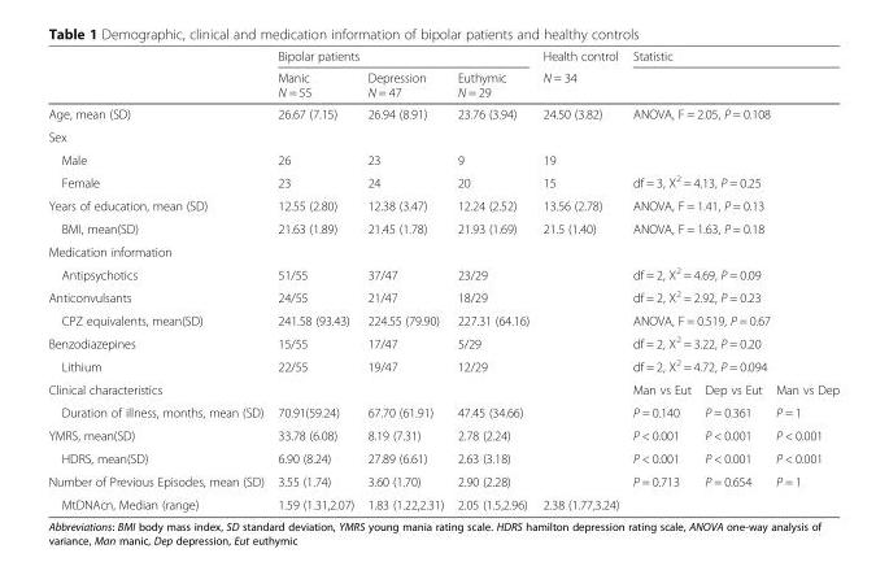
<table><thead><tr><td rowspan="2"></td><td colspan="3">Bipolar patients</td><td rowspan="2">Health control N = 34</td><td colspan="3">Statistic</td></tr><tr><td>Manic N = 55</td><td>Depression N = 47</td><td>Euthymic N = 29</td><td></td><td></td><td></td></tr></thead><tbody><tr><td>Age, mean (SD)</td><td>26.67 (7.15)</td><td>26.94 (8.91)</td><td>23.76 (3.94)</td><td>24.50 (3.82)</td><td colspan="3">ANOVA, F = 2.05, P = 0.108</td></tr><tr><td colspan="8">Sex</td></tr><tr><td>Male</td><td>26</td><td>23</td><td>9</td><td>19</td><td colspan="3"></td></tr><tr><td>Female</td><td>23</td><td>24</td><td>20</td><td>15</td><td colspan="3">df = 3, X<sup>2</sup> = 4.13, P = 0.25</td></tr><tr><td>Years of education, mean (SD)</td><td>12.55 (2.80)</td><td>12.38 (3.47)</td><td>12.24 (2.52)</td><td>13.56 (2.78)</td><td colspan="3">ANOVA, F = 1.41, P = 0.13</td></tr><tr><td>BMI, mean(SD)</td><td>21.63 (1.89)</td><td>21.45 (1.78)</td><td>21.93 (1.69)</td><td>21.5 (1.40)</td><td colspan="3">ANOVA, F = 1.63, P = 0.18</td></tr><tr><td colspan="8">Medication information</td></tr><tr><td>Antipsychotics</td><td>51/55</td><td>37/47</td><td>23/29</td><td></td><td colspan="3">df = 2, X<sup>2</sup> = 4.69, P = 0.09</td></tr><tr><td>Anticonvulsants</td><td>24/55</td><td>21/47</td><td>18/29</td><td></td><td colspan="3">df = 2, X<sup>2</sup> = 2.92, P = 0.23</td></tr><tr><td>CPZ equivalents, mean(SD)</td><td>241.58 (93.43)</td><td>224.55 (79.90)</td><td>227.31 (64.16)</td><td></td><td colspan="3">ANOVA, F = 0.519, P = 0.67</td></tr><tr><td>Benzodiazepines</td><td>15/55</td><td>17/47</td><td>5/29</td><td></td><td colspan="3">df = 2, X<sup>2</sup> = 3.22, P = 0.20</td></tr><tr><td>Lithium</td><td>22/55</td><td>19/47</td><td>12/29</td><td></td><td colspan="3">df = 2, X<sup>2</sup> = 4.72, P = 0.094</td></tr><tr><td colspan="5">Clinical characteristics</td><td>Man vs Eut</td><td>Dep vs Eut</td><td>Man vs Dep</td></tr><tr><td>Duration of illness, months, mean (SD)</td><td>70.91(59.24)</td><td>67.70 (61.91)</td><td>47.45 (34.66)</td><td></td><td>P = 0.140</td><td>P = 0.361</td><td>P = 1</td></tr><tr><td>YMRS, mean(SD)</td><td>33.78 (6.08)</td><td>8.19 (7.31)</td><td>2.78 (2.24)</td><td></td><td>P &lt; 0.001</td><td>P &lt; 0.001</td><td>P &lt; 0.001</td></tr><tr><td>HDRS, mean(SD)</td><td>6.90 (8.24)</td><td>27.89 (6.61)</td><td>2.63 (3.18)</td><td></td><td>P &lt; 0.001</td><td>P &lt; 0.001</td><td>P &lt; 0.001</td></tr><tr><td>Number of Previous Episodes, mean (SD)</td><td>3.55 (1.74)</td><td>3.60 (1.70)</td><td>2.90 (2.28)</td><td></td><td>P = 0.713</td><td>P = 0.654</td><td>P = 1</td></tr><tr><td>MtDNAcn, Median (range)</td><td>1.59 (1.31,2.07)</td><td>1.83 (1.22,2.31)</td><td>2.05 (1.5,2.96)</td><td>2.38 (1.77,3.24)</td><td></td><td></td><td></td></tr></tbody></table>